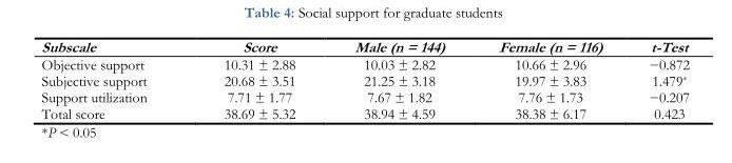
<table><thead><tr><td>Subscale</td><td>Score</td><td>Male (n = 144)</td><td>Female (n = 116)</td><td>t-Test</td></tr></thead><tbody><tr><td>Objective support</td><td>10.31 ± 2.88</td><td>10.03 ± 2.82</td><td>10.66 ± 2.96</td><td>−0.872</td></tr><tr><td>Subjective support</td><td>20.68 ± 3.51</td><td>21.25 ± 3.18</td><td>19.97 ± 3.83</td><td>1.479*</td></tr><tr><td>Support utilization</td><td>7.71 ± 1.77</td><td>7.67 ± 1.82</td><td>7.76 ± 1.73</td><td>−0.207</td></tr><tr><td>Total score</td><td>38.69 ± 5.32</td><td>38.94 ± 4.59</td><td>38.38 ± 6.17</td><td>0.423</td></tr></tbody></table>